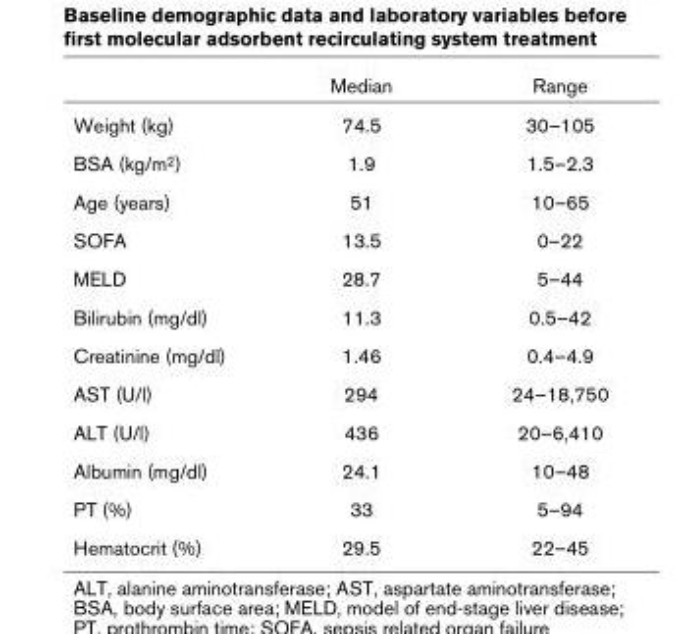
<table><thead><tr><td></td><td>Median</td><td>Range</td></tr></thead><tbody><tr><td>Weight (kg)</td><td>74.5</td><td>30–105</td></tr><tr><td>BSA (kg/m2)</td><td>1.9</td><td>1.5–2.3</td></tr><tr><td>Age (years)</td><td>51</td><td>10–65</td></tr><tr><td>SOFA</td><td>13.5</td><td>0–22</td></tr><tr><td>MELD</td><td>28.7</td><td>5–44</td></tr><tr><td>Bilirubin (mg/dl)</td><td>11.3</td><td>0.5–42</td></tr><tr><td>Creatinine (mg/dl)</td><td>1.46</td><td>0.4–4.9</td></tr><tr><td>AST (U/l)</td><td>294</td><td>24–18,750</td></tr><tr><td>ALT (U/l)</td><td>436</td><td>20–6,410</td></tr><tr><td>Albumin (mg/dl)</td><td>24.1</td><td>10–48</td></tr><tr><td>PT (%)</td><td>33</td><td>5–94</td></tr><tr><td>Hematocrit (%)</td><td>29.5</td><td>22–45</td></tr></tbody></table>